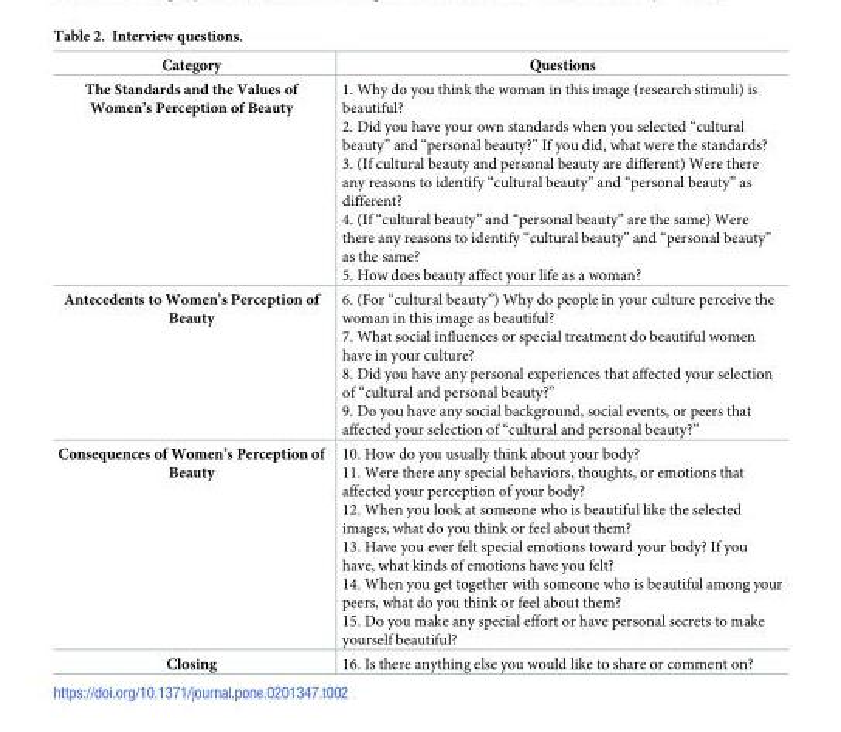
<table><thead><tr><td>Category</td><td>Questions</td></tr></thead><tbody><tr><td>The Standards and the Values of Women’s Perception of Beauty</td><td>1. Why do you think the woman in this image (research stimuli) is beautiful? 2. Did you have your own standards when you selected “cultural beauty” and “personal beauty?” If you did, what were the standards? 3. (If cultural beauty and personal beauty are different) Were there any reasons to identify “cultural beauty” and “personal beauty” as different? 4. (If “cultural beauty” and “personal beauty” are the same) Were there any reasons to identify “cultural beauty” and “personal beauty” as the same? 5. How does beauty affect your life as a woman?</td></tr><tr><td>Antecedents to Women’s Perception of Beauty</td><td>6. (For “cultural beauty”) Why do people in your culture perceive the woman in this image as beautiful? 7. What social influences or special treatment do beautiful women have in your culture? 8. Did you have any personal experiences that affected your selection of “cultural and personal beauty?” 9. Do you have any social background, social events, or peers that affected your selection of “cultural and personal beauty?”</td></tr><tr><td>Consequences of Women’s Perception of Beauty</td><td>10. How do you usually think about your body? 11. Were there any special behaviors, thoughts, or emotions that affected your perception of your body? 12. When you look at someone who is beautiful like the selected images, what do you think or feel about them? 13. Have you ever felt special emotions toward your body? If you have, what kinds of emotions have you felt? 14. When you get together with someone who is beautiful among your peers, what do you think or feel about them? 15. Do you make any special effort or have personal secrets to make yourself beautiful?</td></tr><tr><td>Closing</td><td>16. Is there anything else you would like to share or comment on?</td></tr></tbody></table>